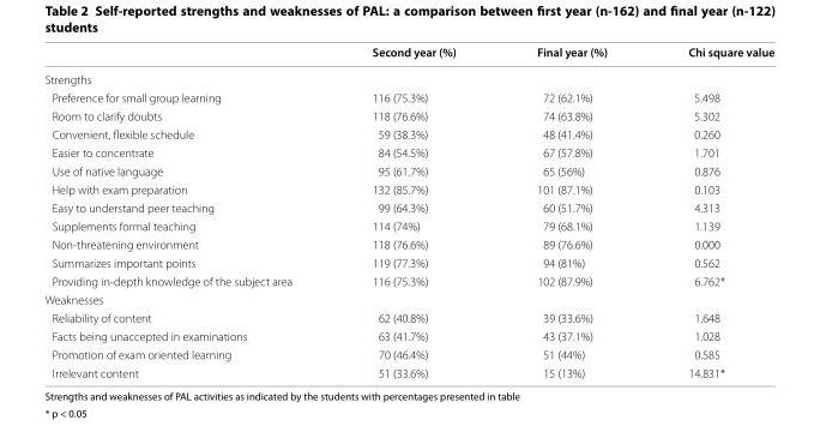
<table><thead><tr><td></td><td>Second year (%)</td><td>Final year (%)</td><td>Chi square value</td></tr></thead><tbody><tr><td colspan="4">Strengths</td></tr><tr><td>Preference for small group learning</td><td>116 (75.3%)</td><td>72 (62.1%)</td><td>5.498</td></tr><tr><td>Room to clarify doubts</td><td>118 (76.6%)</td><td>74 (63.8%)</td><td>5.302</td></tr><tr><td>Convenient, flexible schedule</td><td>59 (38.3%)</td><td>48 (41.4%)</td><td>0.260</td></tr><tr><td>Easier to concentrate</td><td>84 (54.5%)</td><td>67 (57.8%)</td><td>1.701</td></tr><tr><td>Use of native language</td><td>95 (61.7%)</td><td>65 (56%)</td><td>0.876</td></tr><tr><td>Help with exam preparation</td><td>132 (85.7%)</td><td>101 (87.1%)</td><td>0.103</td></tr><tr><td>Easy to understand peer teaching</td><td>99 (64.3%)</td><td>60 (51.7%)</td><td>4.313</td></tr><tr><td>Supplements formal teaching</td><td>114 (74%)</td><td>79 (68.1%)</td><td>1.139</td></tr><tr><td>Non-threatening environment</td><td>118 (76.6%)</td><td>89 (76.6%)</td><td>0.000</td></tr><tr><td>Summarizes important points</td><td>119 (77.3%)</td><td>94 (81%)</td><td>0.562</td></tr><tr><td>Providing in-depth knowledge of the subject area</td><td>116 (75.3%)</td><td>102 (87.9%)</td><td>6.762*</td></tr><tr><td colspan="4">Weaknesses</td></tr><tr><td>Reliability of content</td><td>62 (40.8%)</td><td>39 (33.6%)</td><td>1.648</td></tr><tr><td>Facts being unaccepted in examinations</td><td>63 (41.7%)</td><td>43 (37.1%)</td><td>1.028</td></tr><tr><td>Promotion of exam oriented learning</td><td>70 (46.4%)</td><td>51 (44%)</td><td>0.585</td></tr><tr><td>Irrelevant content</td><td>51 (33.6%)</td><td>15 (13%)</td><td>14.831*</td></tr></tbody></table>